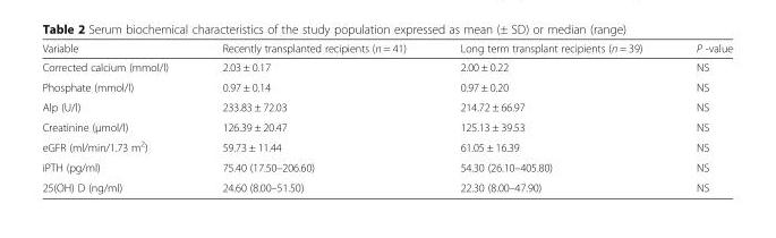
<table><thead><tr><td>Variable</td><td>Recently transplanted recipients (n = 41)</td><td>Long term transplant recipients (n = 39)</td><td>P -value</td></tr></thead><tbody><tr><td>Corrected calcium (mmol/l)</td><td>2.03 ± 0.17</td><td>2.00 ± 0.22</td><td>NS</td></tr><tr><td>Phosphate (mmol/l)</td><td>0.97 ± 0.14</td><td>0.97 ± 0.20</td><td>NS</td></tr><tr><td>Alp (U/l)</td><td>233.83 ± 72.03</td><td>214.72 ± 66.97</td><td>NS</td></tr><tr><td>Creatinine (μmol/l)</td><td>126.39 ± 20.47</td><td>125.13 ± 39.53</td><td>NS</td></tr><tr><td>eGFR (ml/min/1.73 m<sup>2</sup>)</td><td>59.73 ± 11.44</td><td>61.05 ± 16.39</td><td>NS</td></tr><tr><td>iPTH (pg/ml)</td><td>75.40 (17.50–206.60)</td><td>54.30 (26.10–405.80)</td><td>NS</td></tr><tr><td>25(OH) D (ng/ml)</td><td>24.60 (8.00–51.50)</td><td>22.30 (8.00–47.90)</td><td>NS</td></tr></tbody></table>